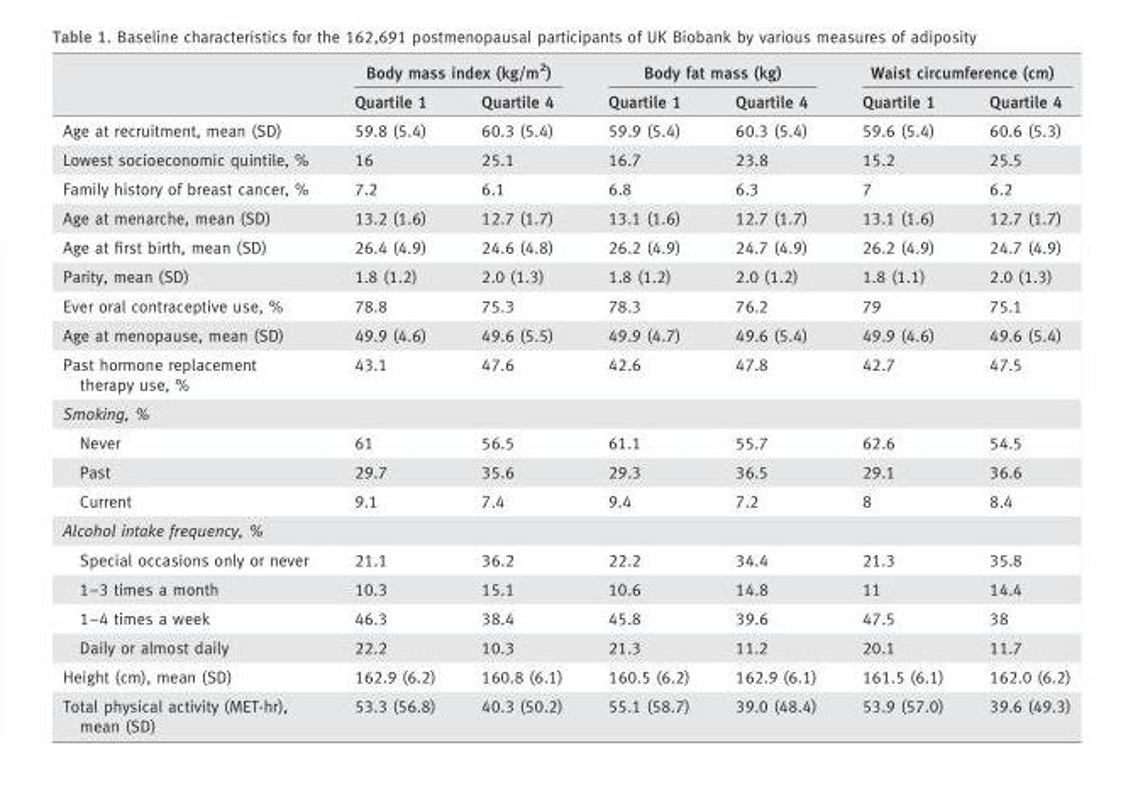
<table><thead><tr><td rowspan="2"></td><td colspan="2">Body mass index (kg/m<sup>2</sup>)</td><td colspan="2">Body fat mass (kg)</td><td colspan="2">Waist circumference (cm)</td></tr><tr><td>Quartile 1</td><td>Quartile 4</td><td>Quartile 1</td><td>Quartile 4</td><td>Quartile 1</td><td>Quartile 4</td></tr></thead><tbody><tr><td>Age at recruitment, mean (SD)</td><td>59.8 (5.4)</td><td>60.3 (5.4)</td><td>59.9 (5.4)</td><td>60.3 (5.4)</td><td>59.6 (5.4)</td><td>60.6 (5.3)</td></tr><tr><td>Lowest socioeconomic quintile, %</td><td>16</td><td>25.1</td><td>16.7</td><td>23.8</td><td>15.2</td><td>25.5</td></tr><tr><td>Family history of breast cancer, %</td><td>7.2</td><td>6.1</td><td>6.8</td><td>6.3</td><td>7</td><td>6.2</td></tr><tr><td>Age at menarche, mean (SD)</td><td>13.2 (1.6)</td><td>12.7 (1.7)</td><td>13.1 (1.6)</td><td>12.7 (1.7)</td><td>13.1 (1.6)</td><td>12.7 (1.7)</td></tr><tr><td>Age at first birth, mean (SD)</td><td>26.4 (4.9)</td><td>24.6 (4.8)</td><td>26.2 (4.9)</td><td>24.7 (4.9)</td><td>26.2 (4.9)</td><td>24.7 (4.9)</td></tr><tr><td>Parity, mean (SD)</td><td>1.8 (1.2)</td><td>2.0 (1.3)</td><td>1.8 (1.2)</td><td>2.0 (1.2)</td><td>1.8 (1.1)</td><td>2.0 (1.3)</td></tr><tr><td>Ever oral contraceptive use, %</td><td>78.8</td><td>75.3</td><td>78.3</td><td>76.2</td><td>79</td><td>75.1</td></tr><tr><td>Age at menopause, mean (SD)</td><td>49.9 (4.6)</td><td>49.6 (5.5)</td><td>49.9 (4.7)</td><td>49.6 (5.4)</td><td>49.9 (4.6)</td><td>49.6 (5.4)</td></tr><tr><td>Past hormone replacement therapy use, %</td><td>43.1</td><td>47.6</td><td>42.6</td><td>47.8</td><td>42.7</td><td>47.5</td></tr><tr><td colspan="7">Smoking, %</td></tr><tr><td>Never</td><td>61</td><td>56.5</td><td>61.1</td><td>55.7</td><td>62.6</td><td>54.5</td></tr><tr><td>Past</td><td>29.7</td><td>35.6</td><td>29.3</td><td>36.5</td><td>29.1</td><td>36.6</td></tr><tr><td>Current</td><td>9.1</td><td>7.4</td><td>9.4</td><td>7.2</td><td>8</td><td>8.4</td></tr><tr><td colspan="7">Alcohol intake frequency, %</td></tr><tr><td>Special occasions only or never</td><td>21.1</td><td>36.2</td><td>22.2</td><td>34.4</td><td>21.3</td><td>35.8</td></tr><tr><td>1–3 times a month</td><td>10.3</td><td>15.1</td><td>10.6</td><td>14.8</td><td>11</td><td>14.4</td></tr><tr><td>1–4 times a week</td><td>46.3</td><td>38.4</td><td>45.8</td><td>39.6</td><td>47.5</td><td>38</td></tr><tr><td>Daily or almost daily</td><td>22.2</td><td>10.3</td><td>21.3</td><td>11.2</td><td>20.1</td><td>11.7</td></tr><tr><td>Height (cm), mean (SD)</td><td>162.9 (6.2)</td><td>160.8 (6.1)</td><td>160.5 (6.2)</td><td>162.9 (6.1)</td><td>161.5 (6.1)</td><td>162.0 (6.2)</td></tr><tr><td>Total physical activity (MET-hr), mean (SD)</td><td>53.3 (56.8)</td><td>40.3 (50.2)</td><td>55.1 (58.7)</td><td>39.0 (48.4)</td><td>53.9 (57.0)</td><td>39.6 (49.3)</td></tr></tbody></table>